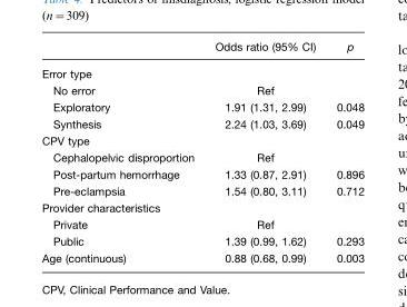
<table><thead><tr><td></td><td>Odds ratio (95% CI)</td><td>p</td></tr></thead><tbody><tr><td colspan="3">Error type</td></tr><tr><td>No error</td><td>Ref</td><td></td></tr><tr><td>Exploratory</td><td>1.91 (1.31, 2.99)</td><td>0.048</td></tr><tr><td>Synthesis</td><td>2.24 (1.03, 3.69)</td><td>0.049</td></tr><tr><td colspan="3">CPV type</td></tr><tr><td>Cephalopelvic disproportion</td><td>Ref</td><td></td></tr><tr><td>Post-partum hemorrhage</td><td>1.33 (0.87, 2.91)</td><td>0.896</td></tr><tr><td>Pre-eclampsia</td><td>1.54 (0.80, 3.11)</td><td>0.712</td></tr><tr><td colspan="3">Provider characteristics</td></tr><tr><td>Private</td><td>Ref</td><td></td></tr><tr><td>Public</td><td>1.39 (0.99, 1.62)</td><td>0.293</td></tr><tr><td>Age (continuous)</td><td>0.88 (0.68, 0.99)</td><td>0.003</td></tr></tbody></table>